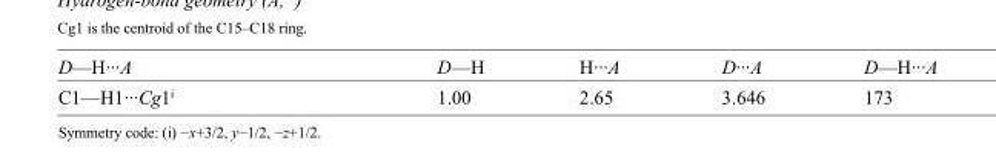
<table><tbody><tr><td>D—H···A</td><td>D—H</td><td>H···A</td><td>D···A</td><td>D—H···A</td></tr><tr><td>C1—H1···Cg1<sup>i</sup></td><td>1.00</td><td>2.65</td><td>3.646</td><td>173</td></tr></tbody></table>